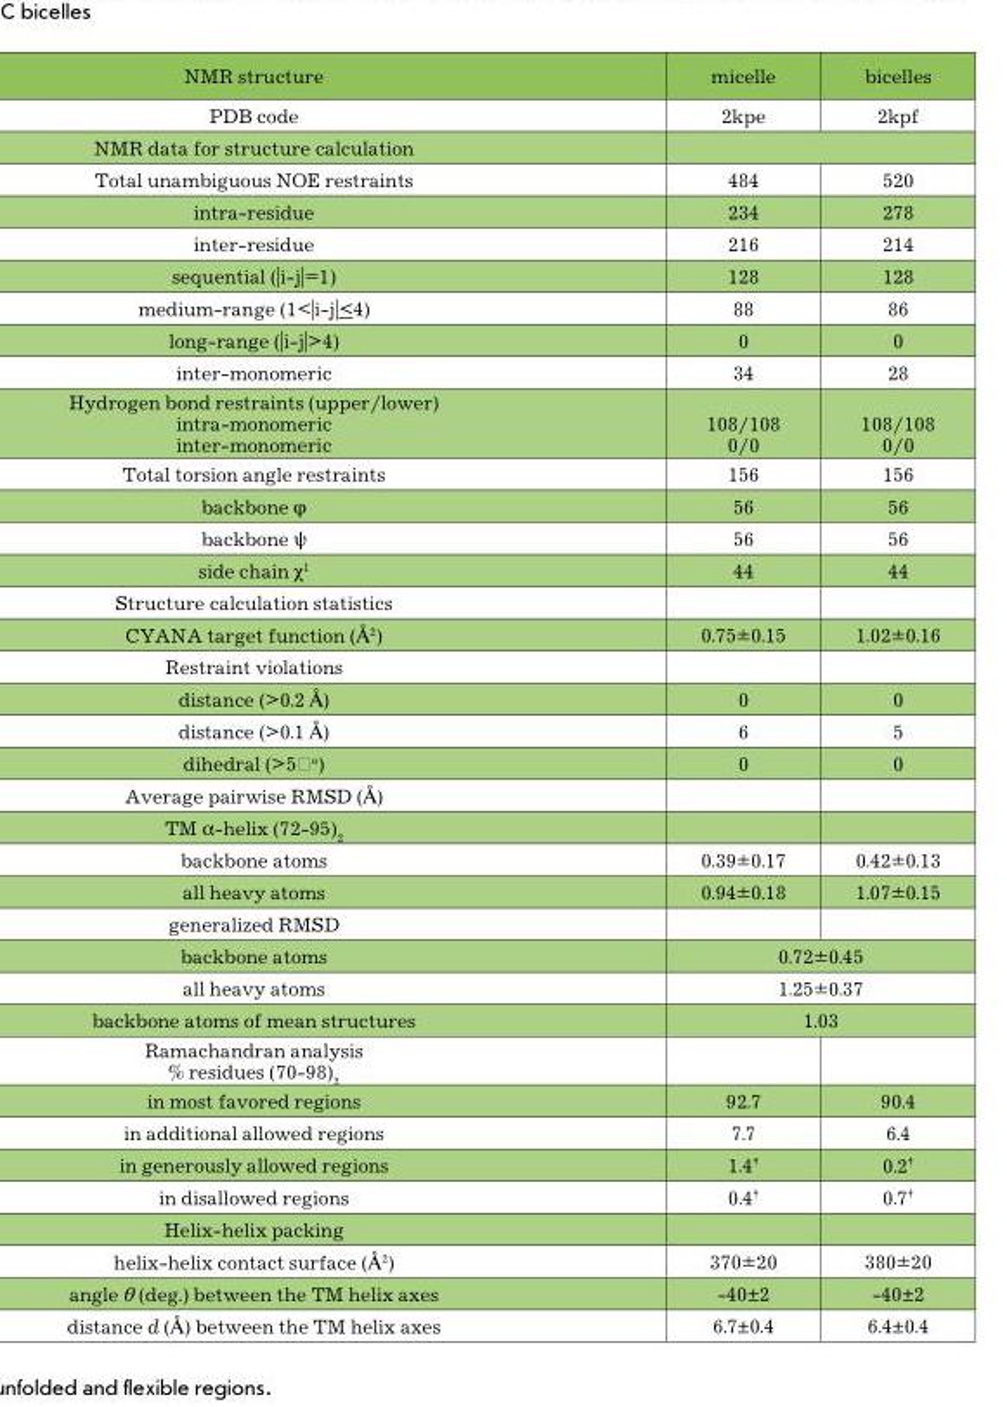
<table><thead><tr><td>NMR structure</td><td>micelle</td><td>bicelles</td></tr></thead><tbody><tr><td>PDB code</td><td>2kpe</td><td>2kpf</td></tr><tr><td colspan="3">NMR data for structure calculation</td></tr><tr><td>Total unambiguous NOE restraints</td><td>484</td><td>520</td></tr><tr><td>intra-residue</td><td>234</td><td>278</td></tr><tr><td>inter-residue</td><td>216</td><td>214</td></tr><tr><td>sequential (|i-j|=1)</td><td>128</td><td>128</td></tr><tr><td>medium-range (1&lt;|i-j|&lt;4)</td><td>88</td><td>86</td></tr><tr><td>long-range (|i-j|&gt;4)</td><td>0</td><td>0</td></tr><tr><td>inter-monomeric</td><td>34</td><td>28</td></tr><tr><td>Hydrogen bond restraints (upper/lower) intra-monomeric inter-monomeric</td><td>108/108 0/0</td><td>108/108 0/0</td></tr><tr><td>Total torsion angle restraints</td><td>156</td><td>156</td></tr><tr><td>backbone φ</td><td>56</td><td>56</td></tr><tr><td>backbone ψ</td><td>56</td><td>56</td></tr><tr><td>side chain χ<sup>1</sup></td><td>44</td><td>44</td></tr><tr><td colspan="3">Structure calculation statistics</td></tr><tr><td>CYANA target function (Å<sup>2</sup>)</td><td>0.75±0.15</td><td>1.02±0.16</td></tr><tr><td colspan="3">Restraint violations</td></tr><tr><td>distance (&gt;0.2 Å)</td><td>0</td><td>0</td></tr><tr><td>distance (&gt;0.1 Å)</td><td>6</td><td>5</td></tr><tr><td>dihedral (&gt;5o)</td><td>0</td><td>0</td></tr><tr><td colspan="3">Average pairwise RMSD (Å)</td></tr><tr><td colspan="3">ТМ α-helix (72-95)<sub>2</sub></td></tr><tr><td>backbone atoms</td><td>0.39±0.17</td><td>0.42±0.13</td></tr><tr><td>all heavy atoms</td><td>0.94±0.18</td><td>1.07±0.15</td></tr><tr><td colspan="3">generalized RMSD</td></tr><tr><td>backbone atoms</td><td colspan="2">0.72±0.45</td></tr><tr><td>all heavy atoms</td><td colspan="2">1.25±0.37</td></tr><tr><td>backbone atoms of mean structures</td><td colspan="2">1.03</td></tr><tr><td colspan="3">Ramachandran analysis % residues (70-98)<sub>2</sub></td></tr><tr><td>in most favored regions</td><td>92.7</td><td>90.4</td></tr><tr><td>in additional allowed regions</td><td>7.7</td><td>6.4</td></tr><tr><td>in generously allowed regions</td><td>1.4<sup>†</sup></td><td>0.2<sup>†</sup></td></tr><tr><td>in disallowed regions</td><td>0.4<sup>†</sup></td><td>0.7<sup>†</sup></td></tr><tr><td colspan="3">Helix-helix packing</td></tr><tr><td>helix-helix contact surface (Å<sup>2</sup>)</td><td>370±20</td><td>380±20</td></tr><tr><td>angle θ (deg.) between the ТМ helix axes</td><td>-40±2</td><td>-40±2</td></tr><tr><td>distance d (Å) between the ТМ helix axes</td><td>6.7±0.4</td><td>6.4±0.4</td></tr></tbody></table>